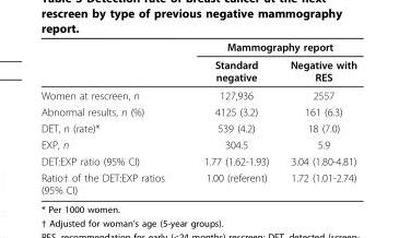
<table><thead><tr><td rowspan="2"></td><td colspan="2">Mammography report</td></tr><tr><td>Standard negative</td><td>Negative with RES</td></tr></thead><tbody><tr><td>Women at rescreen, n</td><td>127,936</td><td>2557</td></tr><tr><td>Abnormal results, n (%)</td><td>4125 (3.2)</td><td>161 (6.3)</td></tr><tr><td>DET, n (rate)*</td><td>539 (4.2)</td><td>18 (7.0)</td></tr><tr><td>EXP, n</td><td>304.5</td><td>5.9</td></tr><tr><td>DET:EXP ratio (95% CI)</td><td>1.77 (1.62-1.93)</td><td>3.04 (1.80-4.81)</td></tr><tr><td>Ratio† of the DET:EXP ratios (95% CI)</td><td>1.00 (referent)</td><td>1.72 (1.01-2.74)</td></tr></tbody></table>